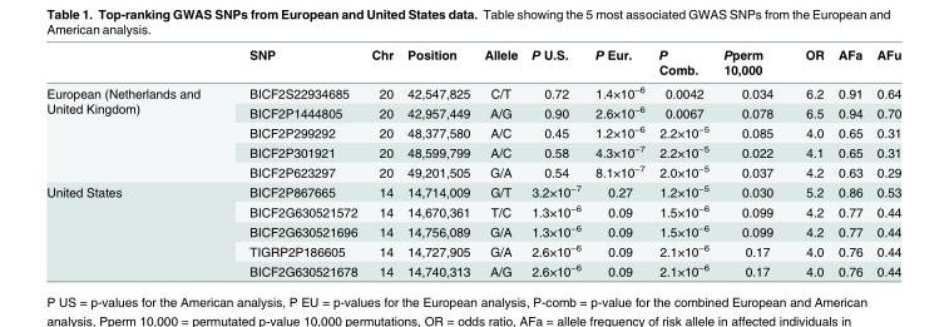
<table><thead><tr><td></td><td>SNP</td><td>Chr</td><td>Position</td><td>Allele</td><td>P U.S.</td><td>P Eur.</td><td>P Comb.</td><td>Pperm 10,000</td><td>OR</td><td>AFa</td><td>AFu</td></tr></thead><tbody><tr><td rowspan="5">European (Netherlands and United Kingdom)</td><td>BICF2S22934685</td><td>20</td><td>42,547,825</td><td>C/T</td><td>0.72</td><td>1.4×10<sup>−6</sup></td><td>0.0042</td><td>0.034</td><td>6.2</td><td>0.91</td><td>0.64</td></tr><tr><td>BICF2P1444805</td><td>20</td><td>42,957,449</td><td>A/G</td><td>0.90</td><td>2.6×10<sup>−6</sup></td><td>0.0067</td><td>0.078</td><td>6.5</td><td>0.94</td><td>0.70</td></tr><tr><td>BICF2P299292</td><td>20</td><td>48,377,580</td><td>A/C</td><td>0.45</td><td>1.2×10<sup>−6</sup></td><td>2.2×10<sup>−5</sup></td><td>0.085</td><td>4.0</td><td>0.65</td><td>0.31</td></tr><tr><td>BICF2P301921</td><td>20</td><td>48,599,799</td><td>A/C</td><td>0.58</td><td>4.3×10<sup>−7</sup></td><td>2.2×10<sup>−5</sup></td><td>0.022</td><td>4.1</td><td>0.65</td><td>0.31</td></tr><tr><td>BICF2P623297</td><td>20</td><td>49,201,505</td><td>G/A</td><td>0.54</td><td>8.1×10<sup>−7</sup></td><td>2.0×10<sup>−5</sup></td><td>0.037</td><td>4.2</td><td>0.63</td><td>0.29</td></tr><tr><td rowspan="5">United States</td><td>BICF2P867665</td><td>14</td><td>14,714,009</td><td>G/T</td><td>3.2×10<sup>−7</sup></td><td>0.27</td><td>1.2×10<sup>−5</sup></td><td>0.030</td><td>5.2</td><td>0.86</td><td>0.53</td></tr><tr><td>BICF2G630521572</td><td>14</td><td>14,670,361</td><td>T/C</td><td>1.3×10<sup>−6</sup></td><td>0.09</td><td>1.5×10<sup>−6</sup></td><td>0.099</td><td>4.2</td><td>0.77</td><td>0.44</td></tr><tr><td>BICF2G630521696</td><td>14</td><td>14,756,089</td><td>G/A</td><td>1.3×10<sup>−6</sup></td><td>0.09</td><td>1.5×10<sup>−6</sup></td><td>0.099</td><td>4.2</td><td>0.77</td><td>0.44</td></tr><tr><td>TIGRP2P186605</td><td>14</td><td>14,727,905</td><td>G/A</td><td>2.6×10<sup>−6</sup></td><td>0.09</td><td>2.1×10<sup>−6</sup></td><td>0.17</td><td>4.0</td><td>0.76</td><td>0.44</td></tr><tr><td>BICF2G630521678</td><td>14</td><td>14,740,313</td><td>A/G</td><td>2.6×10<sup>−6</sup></td><td>0.09</td><td>2.1×10<sup>−6</sup></td><td>0.17</td><td>4.0</td><td>0.76</td><td>0.44</td></tr></tbody></table>